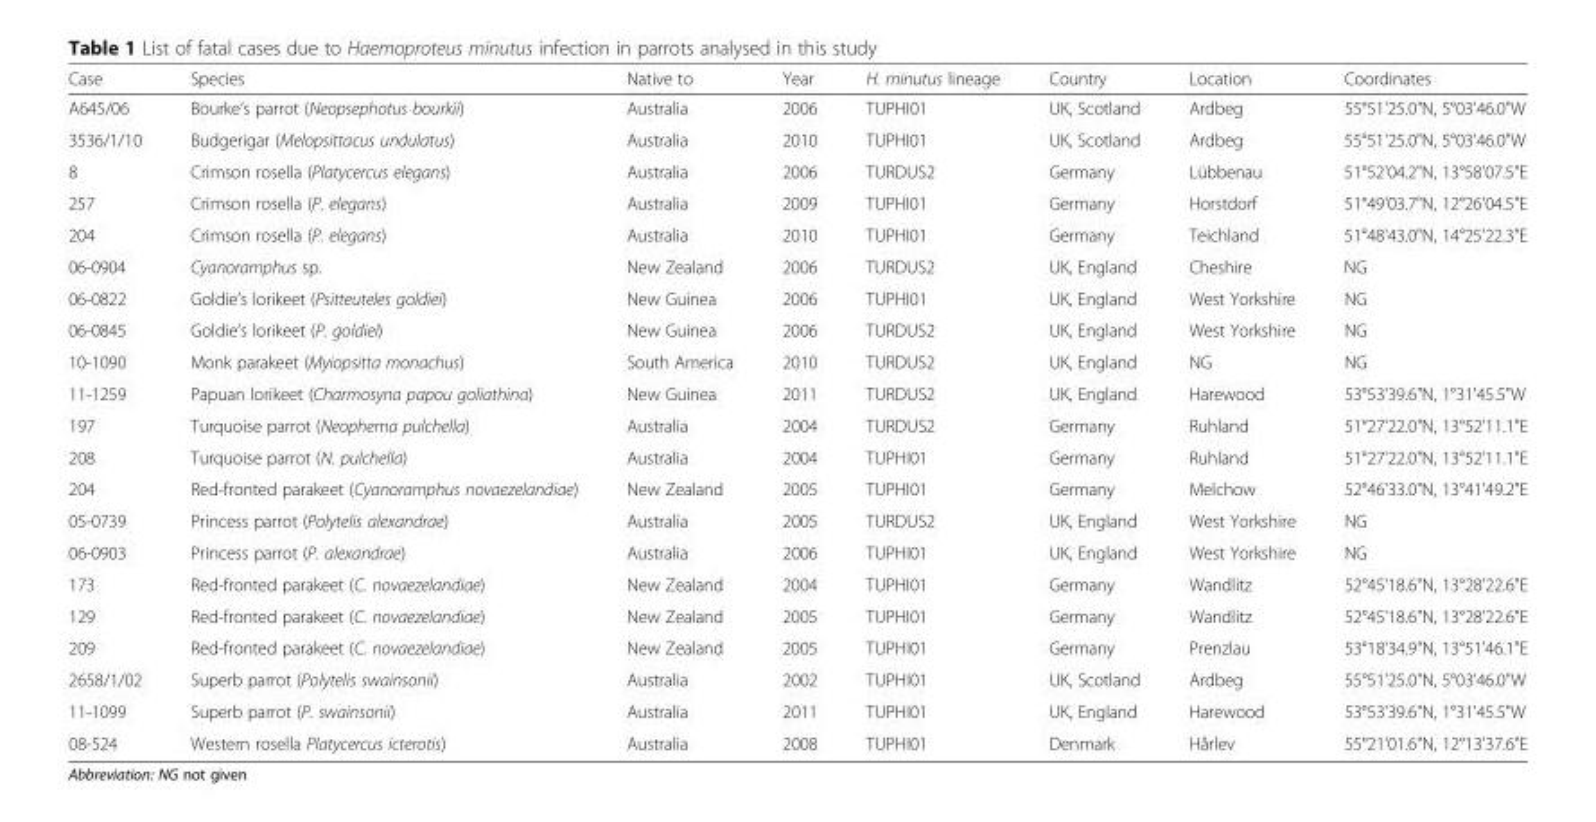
<table><thead><tr><td>Case</td><td>Species</td><td>Native to</td><td>Year</td><td>H. minutus lineage</td><td>Country</td><td>Location</td><td>Coordinates</td></tr></thead><tbody><tr><td>A645/06</td><td>Bourke’s parrot (Neopsephotus bourkii)</td><td>Australia</td><td>2006</td><td>TUPHI01</td><td>UK, Scotland</td><td>Ardbeg</td><td>55°51&#x27;25.0&quot;N, 5°03&#x27;46.0&quot;W</td></tr><tr><td>3536/1/10</td><td>Budgerigar (Melopsittacus undulatus)</td><td>Australia</td><td>2010</td><td>TUPHI01</td><td>UK, Scotland</td><td>Ardbeg</td><td>55°51&#x27;25.0&quot;N, 5°03&#x27;46.0&quot;W</td></tr><tr><td>8</td><td>Crimson rosella (Platycercus elegans)</td><td>Australia</td><td>2006</td><td>TURDUS2</td><td>Germany</td><td>Lübbenau</td><td>51°52&#x27;04.2&quot;N, 13°58&#x27;07.5&quot;E</td></tr><tr><td>257</td><td>Crimson rosella (P. elegans)</td><td>Australia</td><td>2009</td><td>TUPHI01</td><td>Germany</td><td>Horstdorf</td><td>51°49&#x27;03.7&quot;N, 12°26&#x27;04.5&quot;E</td></tr><tr><td>204</td><td>Crimson rosella (P. elegans)</td><td>Australia</td><td>2010</td><td>TUPHI01</td><td>Germany</td><td>Teichland</td><td>51°48&#x27;43.0&quot;N, 14°25&#x27;22.3&quot;E</td></tr><tr><td>06-0904</td><td>Cyanoramphus sp.</td><td>New Zealand</td><td>2006</td><td>TURDUS2</td><td>UK, England</td><td>Cheshire</td><td>NG</td></tr><tr><td>06-0822</td><td>Goldie’s lorikeet (Psitteuteles goldiei)</td><td>New Guinea</td><td>2006</td><td>TUPHI01</td><td>UK, England</td><td>West Yorkshire</td><td>NG</td></tr><tr><td>06-0845</td><td>Goldie’s lorikeet (P. goldiei)</td><td>New Guinea</td><td>2006</td><td>TURDUS2</td><td>UK, England</td><td>West Yorkshire</td><td>NG</td></tr><tr><td>10-1090</td><td>Monk parakeet (Myiopsitta monachus)</td><td>South America</td><td>2010</td><td>TURDUS2</td><td>UK, England</td><td>NG</td><td>NG</td></tr><tr><td>11-1259</td><td>Papuan lorikeet (Charmosyna papou goliathina)</td><td>New Guinea</td><td>2011</td><td>TURDUS2</td><td>UK, England</td><td>Harewood</td><td>53°53&#x27;39.6&quot;N, 1°31&#x27;45.5&quot;W</td></tr><tr><td>197</td><td>Turquoise parrot (Neophema pulchella)</td><td>Australia</td><td>2004</td><td>TURDUS2</td><td>Germany</td><td>Ruhland</td><td>51°27&#x27;22.0&quot;N, 13°52&#x27;11.1&quot;E</td></tr><tr><td>208</td><td>Turquoise parrot (N. pulchella)</td><td>Australia</td><td>2004</td><td>TUPHI01</td><td>Germany</td><td>Ruhland</td><td>51°27&#x27;22.0&quot;N, 13°52&#x27;11.1&quot;E</td></tr><tr><td>204</td><td>Red-fronted parakeet (Cyanoramphus novaezelandiae)</td><td>New Zealand</td><td>2005</td><td>TUPHI01</td><td>Germany</td><td>Melchow</td><td>52°46&#x27;33.0&quot;N, 13°41&#x27;49.2&quot;E</td></tr><tr><td>05-0739</td><td>Princess parrot (Polytelis alexandrae)</td><td>Australia</td><td>2005</td><td>TURDUS2</td><td>UK, England</td><td>West Yorkshire</td><td>NG</td></tr><tr><td>06-0903</td><td>Princess parrot (P. alexandrae)</td><td>Australia</td><td>2006</td><td>TUPHI01</td><td>UK, England</td><td>West Yorkshire</td><td>NG</td></tr><tr><td>173</td><td>Red-fronted parakeet (C. novaezelandiae)</td><td>New Zealand</td><td>2004</td><td>TUPHI01</td><td>Germany</td><td>Wandlitz</td><td>52°45&#x27;18.6&quot;N, 13°28&#x27;22.6&quot;E</td></tr><tr><td>129</td><td>Red-fronted parakeet (C. novaezelandiae)</td><td>New Zealand</td><td>2005</td><td>TUPHI01</td><td>Germany</td><td>Wandlitz</td><td>52°45&#x27;18.6&quot;N, 13°28&#x27;22.6&quot;E</td></tr><tr><td>209</td><td>Red-fronted parakeet (C. novaezelandiae)</td><td>New Zealand</td><td>2005</td><td>TUPHI01</td><td>Germany</td><td>Prenzlau</td><td>53°18&#x27;34.9&quot;N, 13°51&#x27;46.1&quot;E</td></tr><tr><td>2658/1/02</td><td>Superb parrot (Polytelis swainsonii)</td><td>Australia</td><td>2002</td><td>TUPHI01</td><td>UK, Scotland</td><td>Ardbeg</td><td>55°51&#x27;25.0&quot;N, 5°03&#x27;46.0&quot;W</td></tr><tr><td>11-1099</td><td>Superb parrot (P. swainsonii)</td><td>Australia</td><td>2011</td><td>TUPHI01</td><td>UK, England</td><td>Harewood</td><td>53°53&#x27;39.6&quot;N, 1°31&#x27;45.5&quot;W</td></tr><tr><td>08-524</td><td>Western rosella Platycercus icterotis)</td><td>Australia</td><td>2008</td><td>TUPHI01</td><td>Denmark</td><td>Hårlev</td><td>55°21&#x27;01.6&quot;N, 12°13&#x27;37.6&quot;E</td></tr></tbody></table>